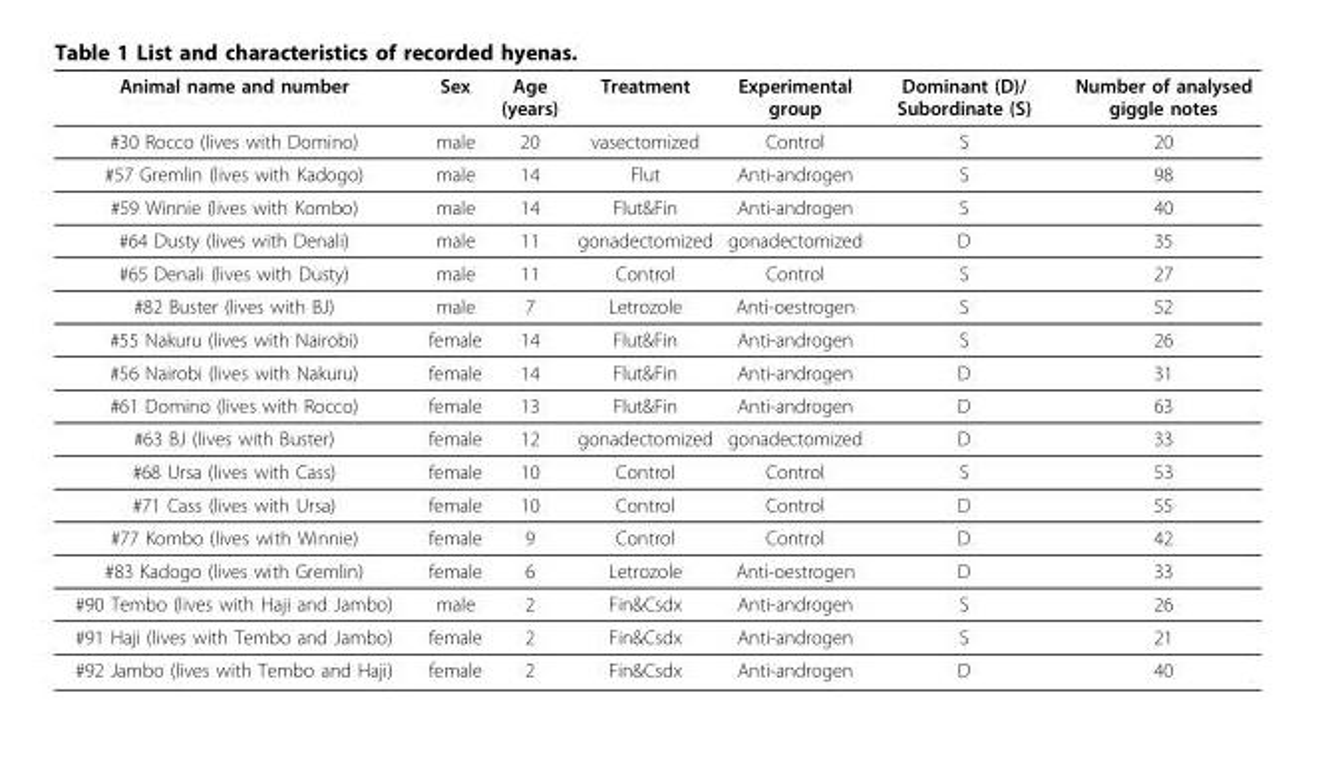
<table><thead><tr><td>Animal name and number</td><td>Sex</td><td>Age (years)</td><td>Treatment</td><td>Experimental group</td><td>Dominant (D)/ Subordinate (S)</td><td>Number of analysed giggle notes</td></tr></thead><tbody><tr><td>#30 Rocco (lives with Domino)</td><td>male</td><td>20</td><td>vasectomized</td><td>Control</td><td>S</td><td>20</td></tr><tr><td>#57 Gremlin (lives with Kadogo)</td><td>male</td><td>14</td><td>Flut</td><td>Anti-androgen</td><td>S</td><td>98</td></tr><tr><td>#59 Winnie (lives with Kombo)</td><td>male</td><td>14</td><td>Flut&amp;Fin</td><td>Anti-androgen</td><td>S</td><td>40</td></tr><tr><td>#64 Dusty (lives with Denali)</td><td>male</td><td>11</td><td>gonadectomized</td><td>gonadectomized</td><td>D</td><td>35</td></tr><tr><td>#65 Denali (lives with Dusty)</td><td>male</td><td>11</td><td>Control</td><td>Control</td><td>S</td><td>27</td></tr><tr><td>#82 Buster (lives with BJ)</td><td>male</td><td>7</td><td>Letrozole</td><td>Anti-oestrogen</td><td>S</td><td>52</td></tr><tr><td>#55 Nakuru (lives with Nairobi)</td><td>female</td><td>14</td><td>Flut&amp;Fin</td><td>Anti-androgen</td><td>S</td><td>26</td></tr><tr><td>#56 Nairobi (lives with Nakuru)</td><td>female</td><td>14</td><td>Flut&amp;Fin</td><td>Anti-androgen</td><td>D</td><td>31</td></tr><tr><td>#61 Domino (lives with Rocco)</td><td>female</td><td>13</td><td>Flut&amp;Fin</td><td>Anti-androgen</td><td>D</td><td>63</td></tr><tr><td>#63 BJ (lives with Buster)</td><td>female</td><td>12</td><td>gonadectomized</td><td>gonadectomized</td><td>D</td><td>33</td></tr><tr><td>#68 Ursa (lives with Cass)</td><td>female</td><td>10</td><td>Control</td><td>Control</td><td>S</td><td>53</td></tr><tr><td>#71 Cass (lives with Ursa)</td><td>female</td><td>10</td><td>Control</td><td>Control</td><td>D</td><td>55</td></tr><tr><td>#77 Kombo (lives with Winnie)</td><td>female</td><td>9</td><td>Control</td><td>Control</td><td>D</td><td>42</td></tr><tr><td>#83 Kadogo (lives with Gremlin)</td><td>female</td><td>6</td><td>Letrozole</td><td>Anti-oestrogen</td><td>D</td><td>33</td></tr><tr><td>#90 Tembo (lives with Haji and Jambo)</td><td>male</td><td>2</td><td>Fin&amp;Csdx</td><td>Anti-androgen</td><td>S</td><td>26</td></tr><tr><td>#91 Haji (lives with Tembo and Jambo)</td><td>female</td><td>2</td><td>Fin&amp;Csdx</td><td>Anti-androgen</td><td>S</td><td>21</td></tr><tr><td>#92 Jambo (lives with Tembo and Haji)</td><td>female</td><td>2</td><td>Fin&amp;Csdx</td><td>Anti-androgen</td><td>D</td><td>40</td></tr></tbody></table>